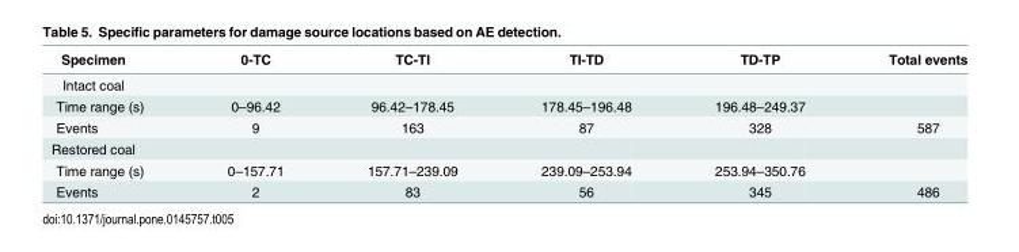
<table><thead><tr><td>Specimen</td><td>0-TC</td><td>TC-TI</td><td>TI-TD</td><td>TD-TP</td><td>Total events</td></tr></thead><tbody><tr><td colspan="6">Intact coal</td></tr><tr><td>Time range (s)</td><td>0–96.42</td><td>96.42–178.45</td><td>178.45–196.48</td><td>196.48–249.37</td><td></td></tr><tr><td>Events</td><td>9</td><td>163</td><td>87</td><td>328</td><td>587</td></tr><tr><td colspan="6">Restored coal</td></tr><tr><td>Time range (s)</td><td>0–157.71</td><td>157.71–239.09</td><td>239.09–253.94</td><td>253.94–350.76</td><td></td></tr><tr><td>Events</td><td>2</td><td>83</td><td>56</td><td>345</td><td>486</td></tr></tbody></table>